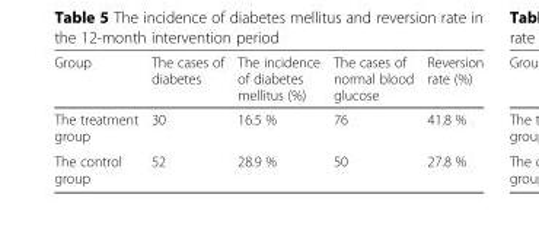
<table><thead><tr><td>Group</td><td>The cases of diabetes</td><td>The incidence of diabetes mellitus (%)</td><td>The cases of normal blood glucose</td><td>Reversion rate (%)</td></tr></thead><tbody><tr><td>The treatment group</td><td>30</td><td>16.5 %</td><td>76</td><td>41.8 %</td></tr><tr><td>The control group</td><td>52</td><td>28.9 %</td><td>50</td><td>27.8 %</td></tr></tbody></table>